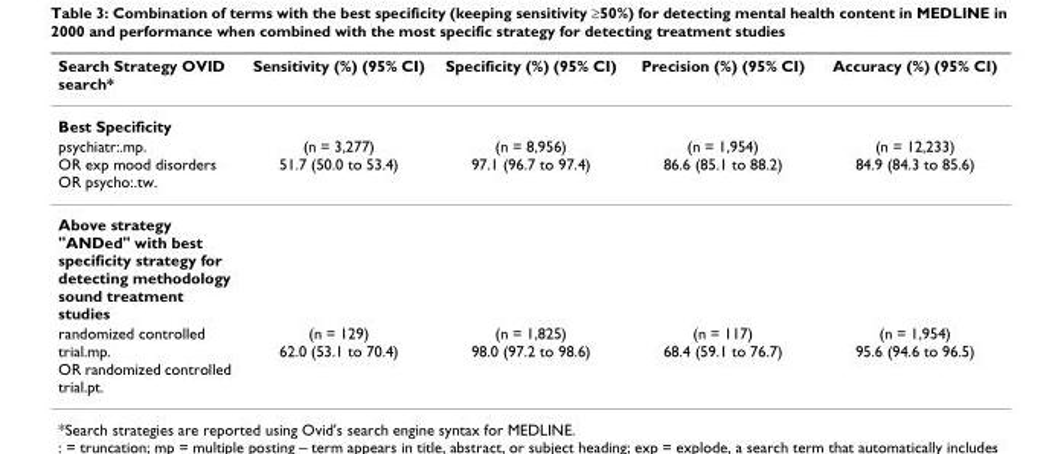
<table><thead><tr><td>Search Strategy OVID search*</td><td>Sensitivity (%) (95% CI)</td><td>Specificity (%) (95% CI)</td><td>Precision (%) (95% CI)</td><td>Accuracy (%) (95% CI)</td></tr></thead><tbody><tr><td colspan="5">Best Specificity</td></tr><tr><td>psychiatr:.mp. OR exp mood disorders OR psycho:.tw.</td><td>(n = 3,277) 51.7 (50.0 to 53.4)</td><td>(n = 8,956) 97.1 (96.7 to 97.4)</td><td>(n = 1,954) 86.6 (85.1 to 88.2)</td><td>(n = 12,233) 84.9 (84.3 to 85.6)</td></tr><tr><td colspan="5">Above strategy &quot;ANDed&quot; with best specificity strategy for detecting methodology sound treatment studies</td></tr><tr><td>randomized controlled trial.mp. OR randomized controlled trial.pt.</td><td>(n = 129) 62.0 (53.1 to 70.4)</td><td>(n = 1,825) 98.0 (97.2 to 98.6)</td><td>(n = 117) 68.4 (59.1 to 76.7)</td><td>(n = 1,954) 95.6 (94.6 to 96.5)</td></tr></tbody></table>